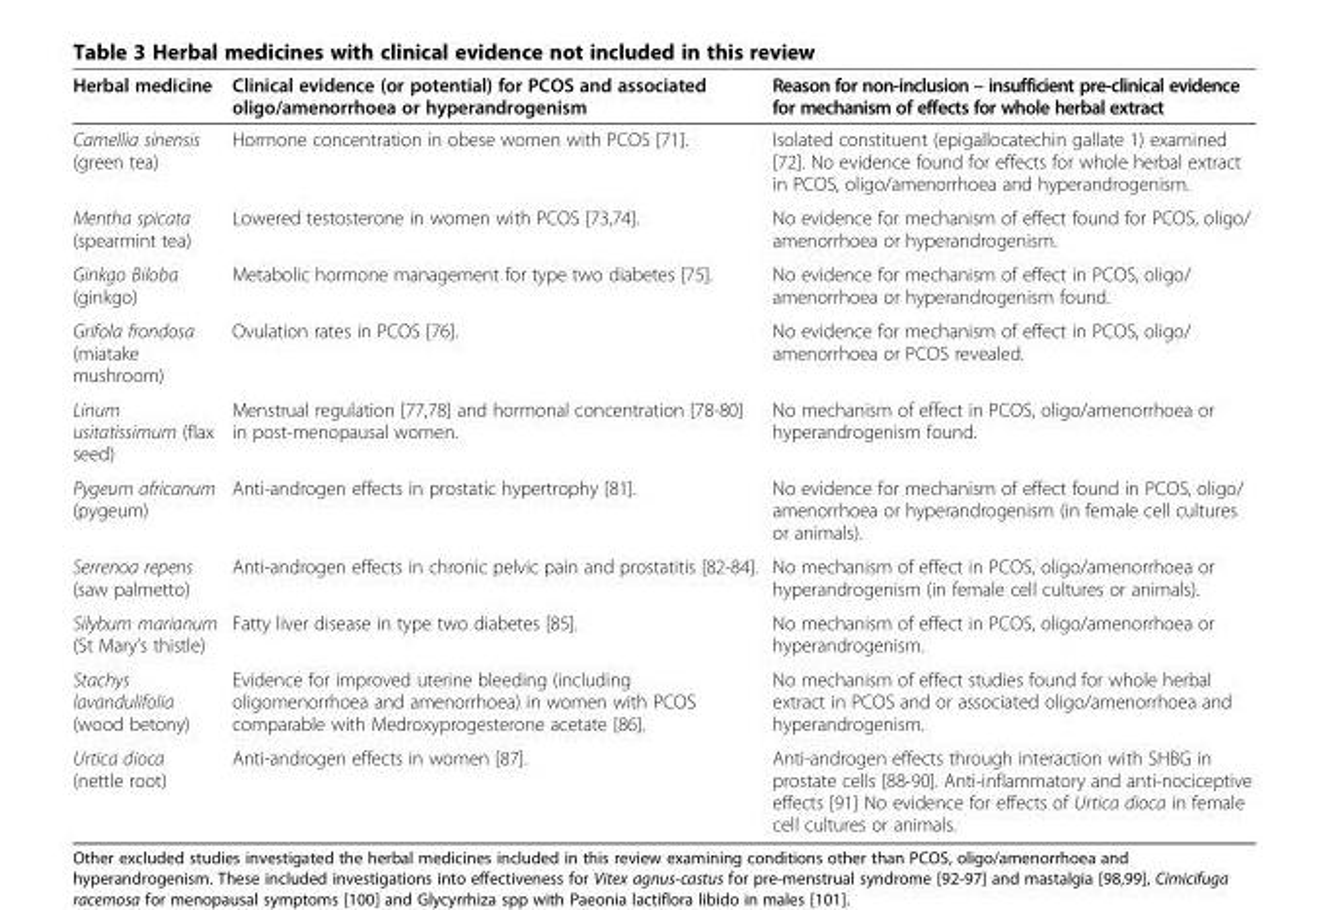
<table><thead><tr><td>Herbal medicine</td><td>Clinical evidence (or potential) for PCOS and associated oligo/amenorrhoea or hyperandrogenism</td><td>Reason for non-inclusion – insufficient pre-clinical evidence for mechanism of effects for whole herbal extract</td></tr></thead><tbody><tr><td>Camellia sinensis (green tea)</td><td>Hormone concentration in obese women with PCOS [71].</td><td>Isolated constituent (epigallocatechin gallate 1) examined [72]. No evidence found for effects for whole herbal extract in PCOS, oligo/amenorrhoea and hyperandrogenism.</td></tr><tr><td>Mentha spicata (spearmint tea)</td><td>Lowered testosterone in women with PCOS [73,74].</td><td>No evidence for mechanism of effect found for PCOS, oligo/ amenorrhoea or hyperandrogenism.</td></tr><tr><td>Ginkgo Biloba (ginkgo)</td><td>Metabolic hormone management for type two diabetes [75].</td><td>No evidence for mechanism of effect in PCOS, oligo/ amenorrhoea or hyperandrogenism found.</td></tr><tr><td>Grifola frondosa (miatake mushroom)</td><td>Ovulation rates in PCOS [76].</td><td>No evidence for mechanism of effect in PCOS, oligo/ amenorrhoea or PCOS revealed.</td></tr><tr><td>Linum usitatissimum (flax seed)</td><td>Menstrual regulation [77,78] and hormonal concentration [78-80] in post-menopausal women.</td><td>No mechanism of effect in PCOS, oligo/amenorrhoea or hyperandrogenism found.</td></tr><tr><td>Pygeum africanum (pygeum)</td><td>Anti-androgen effects in prostatic hypertrophy [81].</td><td>No evidence for mechanism of effect found in PCOS, oligo/ amenorrhoea or hyperandrogenism (in female cell cultures or animals).</td></tr><tr><td>Serrenoa repens (saw palmetto)</td><td>Anti-androgen effects in chronic pelvic pain and prostatitis [82-84].</td><td>No mechanism of effect in PCOS, oligo/amenorrhoea or hyperandrogenism (in female cell cultures or animals).</td></tr><tr><td>Silybum marianum (St Mary’s thistle)</td><td>Fatty liver disease in type two diabetes [85].</td><td>No mechanism of effect in PCOS, oligo/amenorrhoea or hyperandrogenism.</td></tr><tr><td>Stachys lavandulifolia (wood betony)</td><td>Evidence for improved uterine bleeding (including oligomenorrhoea and amenorrhoea) in women with PCOS comparable with Medroxyprogesterone acetate [86].</td><td>No mechanism of effect studies found for whole herbal extract in PCOS and or associated oligo/amenorrhoea and hyperandrogenism.</td></tr><tr><td>Urtica dioca (nettle root)</td><td>Anti-androgen effects in women [87].</td><td>Anti-androgen effects through interaction with SHBG in prostate cells [88-90]. Anti-inflammatory and anti-nociceptive effects [91] No evidence for effects of Urtica dioca in female cell cultures or animals.</td></tr></tbody></table>